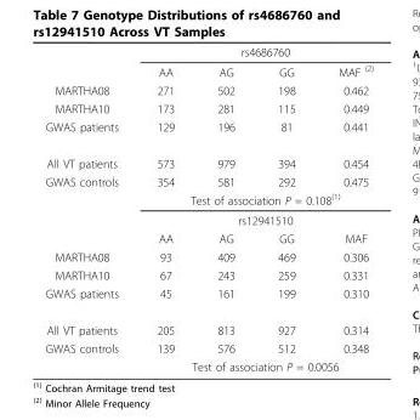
<table><thead><tr><td rowspan="2"></td><td colspan="4">rs4686760</td></tr><tr><td>AA</td><td>AG</td><td>GG</td><td>MAF <sup>(2)</sup></td></tr></thead><tbody><tr><td>MARTHA08</td><td>271</td><td>502</td><td>198</td><td>0.462</td></tr><tr><td>MARTHA10</td><td>173</td><td>281</td><td>115</td><td>0.449</td></tr><tr><td>GWAS patients</td><td>129</td><td>196</td><td>81</td><td>0.441</td></tr><tr><td>All VT patients</td><td>573</td><td>979</td><td>394</td><td>0.454</td></tr><tr><td rowspan="4">GWAS controls</td><td>354</td><td>581</td><td>292</td><td>0.475</td></tr><tr><td colspan="4">Test of association P = 0.108<sup>(1)</sup></td></tr><tr><td colspan="4">rs12941510</td></tr><tr><td>AA</td><td>AG</td><td>GG</td><td>MAF</td></tr><tr><td>MARTHA08</td><td>93</td><td>409</td><td>469</td><td>0.306</td></tr><tr><td>MARTHA10</td><td>67</td><td>243</td><td>259</td><td>0.331</td></tr><tr><td>GWAS patients</td><td>45</td><td>161</td><td>199</td><td>0.310</td></tr><tr><td>All VT patients</td><td>205</td><td>813</td><td>927</td><td>0.314</td></tr><tr><td rowspan="2">GWAS controls</td><td>139</td><td>576</td><td>512</td><td>0.348</td></tr><tr><td colspan="4">Test of association P = 0.0056</td></tr></tbody></table>